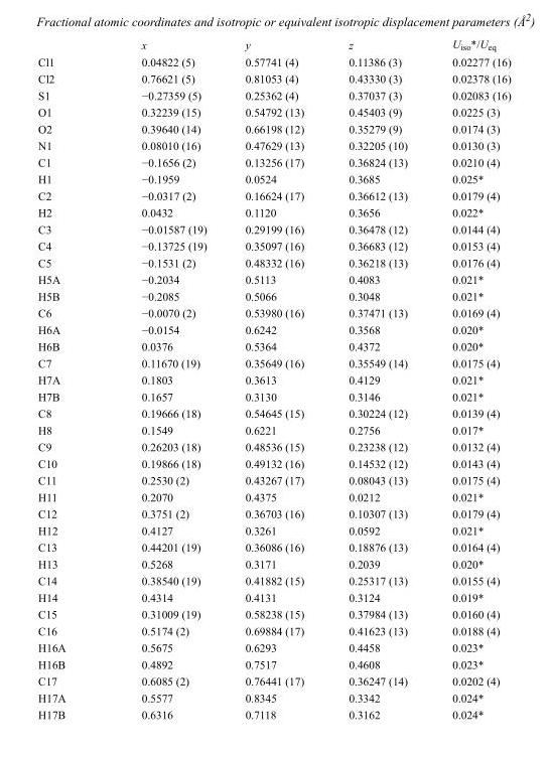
<table><thead><tr><td></td><td>x</td><td>y</td><td>z</td><td>U<sub>iso</sub>*/U<sub>eq</sub></td></tr></thead><tbody><tr><td>Cl1</td><td>0.04822 (5)</td><td>0.57741 (4)</td><td>0.11386 (3)</td><td>0.02277 (16)</td></tr><tr><td>Cl2</td><td>0.76621 (5)</td><td>0.81053 (4)</td><td>0.43330 (3)</td><td>0.02378 (16)</td></tr><tr><td>S1</td><td>−0.27359 (5)</td><td>0.25362 (4)</td><td>0.37037 (3)</td><td>0.02083 (16)</td></tr><tr><td>O1</td><td>0.32239 (15)</td><td>0.54792 (13)</td><td>0.45403 (9)</td><td>0.0225 (3)</td></tr><tr><td>O2</td><td>0.39640 (14)</td><td>0.66198 (12)</td><td>0.35279 (9)</td><td>0.0174 (3)</td></tr><tr><td>N1</td><td>0.08010 (16)</td><td>0.47629 (13)</td><td>0.32205 (10)</td><td>0.0130 (3)</td></tr><tr><td>C1</td><td>−0.1656 (2)</td><td>0.13256 (17)</td><td>0.36824 (13)</td><td>0.0210 (4)</td></tr><tr><td>H1</td><td>−0.1959</td><td>0.0524</td><td>0.3685</td><td>0.025*</td></tr><tr><td>C2</td><td>−0.0317 (2)</td><td>0.16624 (17)</td><td>0.36612 (13)</td><td>0.0179 (4)</td></tr><tr><td>H2</td><td>0.0432</td><td>0.1120</td><td>0.3656</td><td>0.022*</td></tr><tr><td>C3</td><td>−0.01587 (19)</td><td>0.29199 (16)</td><td>0.36478 (12)</td><td>0.0144 (4)</td></tr><tr><td>C4</td><td>−0.13725 (19)</td><td>0.35097 (16)</td><td>0.36683 (12)</td><td>0.0153 (4)</td></tr><tr><td>C5</td><td>−0.1531 (2)</td><td>0.48332 (16)</td><td>0.36218 (13)</td><td>0.0176 (4)</td></tr><tr><td>H5A</td><td>−0.2034</td><td>0.5113</td><td>0.4083</td><td>0.021*</td></tr><tr><td>H5B</td><td>−0.2085</td><td>0.5066</td><td>0.3048</td><td>0.021*</td></tr><tr><td>C6</td><td>−0.0070 (2)</td><td>0.53980 (16)</td><td>0.37471 (13)</td><td>0.0169 (4)</td></tr><tr><td>H6A</td><td>−0.0154</td><td>0.6242</td><td>0.3568</td><td>0.020*</td></tr><tr><td>H6B</td><td>0.0376</td><td>0.5364</td><td>0.4372</td><td>0.020*</td></tr><tr><td>C7</td><td>0.11670 (19)</td><td>0.35649 (16)</td><td>0.35549 (14)</td><td>0.0175 (4)</td></tr><tr><td>H7A</td><td>0.1803</td><td>0.3613</td><td>0.4129</td><td>0.021*</td></tr><tr><td>H7B</td><td>0.1657</td><td>0.3130</td><td>0.3146</td><td>0.021*</td></tr><tr><td>C8</td><td>0.19666 (18)</td><td>0.54645 (15)</td><td>0.30224 (12)</td><td>0.0139 (4)</td></tr><tr><td>H8</td><td>0.1549</td><td>0.6221</td><td>0.2756</td><td>0.017*</td></tr><tr><td>C9</td><td>0.26203 (18)</td><td>0.48536 (15)</td><td>0.23238 (12)</td><td>0.0132 (4)</td></tr><tr><td>C10</td><td>0.19866 (18)</td><td>0.49132 (16)</td><td>0.14532 (12)</td><td>0.0143 (4)</td></tr><tr><td>C11</td><td>0.2530 (2)</td><td>0.43267 (17)</td><td>0.08043 (13)</td><td>0.0175 (4)</td></tr><tr><td>H11</td><td>0.2070</td><td>0.4375</td><td>0.0212</td><td>0.021*</td></tr><tr><td>C12</td><td>0.3751 (2)</td><td>0.36703 (16)</td><td>0.10307 (13)</td><td>0.0179 (4)</td></tr><tr><td>H12</td><td>0.4127</td><td>0.3261</td><td>0.0592</td><td>0.021*</td></tr><tr><td>C13</td><td>0.44201 (19)</td><td>0.36086 (16)</td><td>0.18876 (13)</td><td>0.0164 (4)</td></tr><tr><td>H13</td><td>0.5268</td><td>0.3171</td><td>0.2039</td><td>0.020*</td></tr><tr><td>C14</td><td>0.38540 (19)</td><td>0.41882 (15)</td><td>0.25317 (13)</td><td>0.0155 (4)</td></tr><tr><td>H14</td><td>0.4314</td><td>0.4131</td><td>0.3124</td><td>0.019*</td></tr><tr><td>C15</td><td>0.31009 (19)</td><td>0.58238 (15)</td><td>0.37984 (13)</td><td>0.0160 (4)</td></tr><tr><td>C16</td><td>0.5174 (2)</td><td>0.69884 (17)</td><td>0.41623 (13)</td><td>0.0188 (4)</td></tr><tr><td>H16A</td><td>0.5675</td><td>0.6293</td><td>0.4458</td><td>0.023*</td></tr><tr><td>H16B</td><td>0.4892</td><td>0.7517</td><td>0.4608</td><td>0.023*</td></tr><tr><td>C17</td><td>0.6085 (2)</td><td>0.76441 (17)</td><td>0.36247 (14)</td><td>0.0202 (4)</td></tr><tr><td>H17A</td><td>0.5577</td><td>0.8345</td><td>0.3342</td><td>0.024*</td></tr><tr><td>H17B</td><td>0.6316</td><td>0.7118</td><td>0.3162</td><td>0.024*</td></tr></tbody></table>